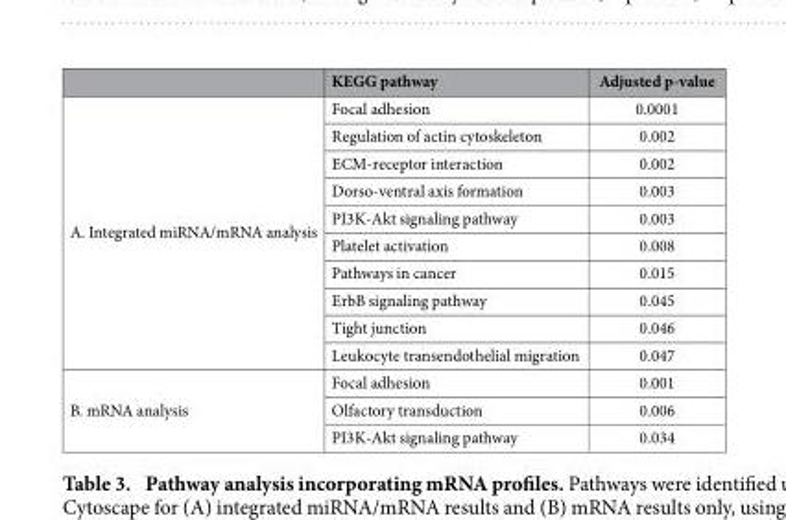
<table><thead><tr><td></td><td>KEGG pathway</td><td>Adjusted p-value</td></tr></thead><tbody><tr><td rowspan="10">A. Integrated miRNA/mRNA analysis</td><td>Focal adhesion</td><td>0.0001</td></tr><tr><td>Regulation of actin cytoskeleton</td><td>0.002</td></tr><tr><td>ECM-receptor interaction</td><td>0.002</td></tr><tr><td>Dorso-ventral axis formation</td><td>0.003</td></tr><tr><td>PI3K-Akt signaling pathway</td><td>0.003</td></tr><tr><td>Platelet activation</td><td>0.008</td></tr><tr><td>Pathways in cancer</td><td>0.015</td></tr><tr><td>ErbB signaling pathway</td><td>0.045</td></tr><tr><td>Tight junction</td><td>0.046</td></tr><tr><td>Leukocyte transendothelial migration</td><td>0.047</td></tr><tr><td rowspan="3">B. mRNA analysis</td><td>Focal adhesion</td><td>0.001</td></tr><tr><td>Olfactory transduction</td><td>0.006</td></tr><tr><td>PI3K-Akt signaling pathway</td><td>0.034</td></tr></tbody></table>